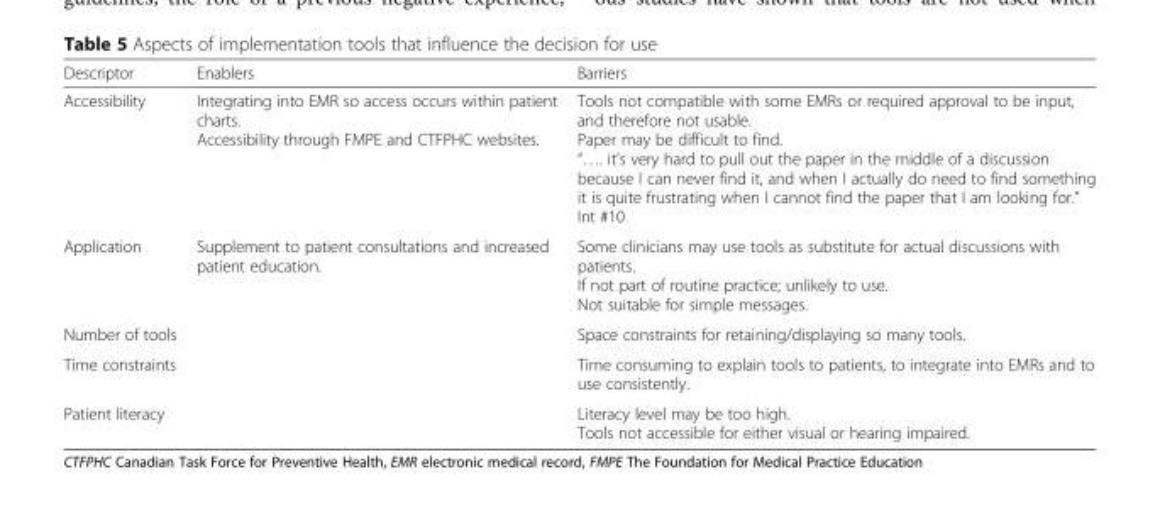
<table><thead><tr><td>Descriptor</td><td>Enablers</td><td>Barriers</td></tr></thead><tbody><tr><td>Accessibility</td><td>Integrating into EMR so access occurs within patient charts. Accessibility through FMPE and CTFPHC websites.</td><td>Tools not compatible with some EMRs or required approval to be input, and therefore not usable. Paper may be difficult to find. “…. it’s very hard to pull out the paper in the middle of a discussion because I can never find it, and when I actually do need to find something it is quite frustrating when I cannot find the paper that I am looking for.” Int #10</td></tr><tr><td>Application</td><td>Supplement to patient consultations and increased patient education.</td><td>Some clinicians may use tools as substitute for actual discussions with patients. If not part of routine practice; unlikely to use. Not suitable for simple messages.</td></tr><tr><td>Number of tools</td><td></td><td>Space constraints for retaining/displaying so many tools.</td></tr><tr><td>Time constraints</td><td></td><td>Time consuming to explain tools to patients, to integrate into EMRs and to use consistently.</td></tr><tr><td>Patient literacy</td><td></td><td>Literacy level may be too high. Tools not accessible for either visual or hearing impaired.</td></tr></tbody></table>